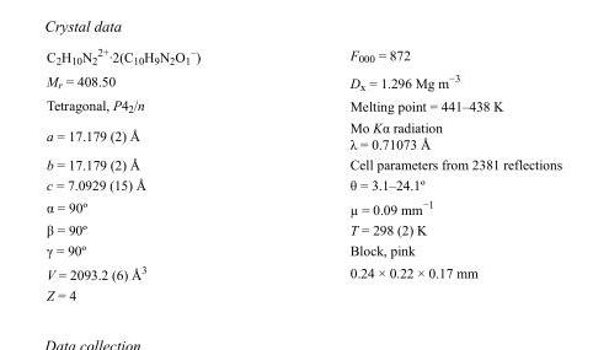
<table><tbody><tr><td>C<sub>2</sub>H<sub>10</sub>N<sub>2</sub> <sup>2+</sup>·2(C<sub>10</sub>H<sub>9</sub>N<sub>2</sub>O<sub>1</sub> <sup>–</sup>)</td><td>F<sub>000</sub> = 872</td></tr><tr><td>M<sub>r</sub> = 408.50</td><td>D<sub>x</sub> = 1.296 Mg m<sup>−3</sup></td></tr><tr><td>Tetragonal, P4<sub>2</sub>/n</td><td>Melting point = 441–438 K</td></tr><tr><td>a = 17.179 (2) Å</td><td>Mo Kα radiation λ = 0.71073 Å</td></tr><tr><td>b = 17.179 (2) Å</td><td>Cell parameters from 2381 reflections</td></tr><tr><td>c = 7.0929 (15) Å</td><td>θ = 3.1–24.1º</td></tr><tr><td>α = 90º</td><td>µ = 0.09 mm<sup>−1</sup></td></tr><tr><td>β = 90º</td><td>T = 298 (2) K</td></tr><tr><td>γ = 90º</td><td>Block, pink</td></tr><tr><td>V = 2093.2 (6) Å<sup>3</sup></td><td>0.24 × 0.22 × 0.17 mm</td></tr><tr><td>Z = 4</td><td></td></tr></tbody></table>